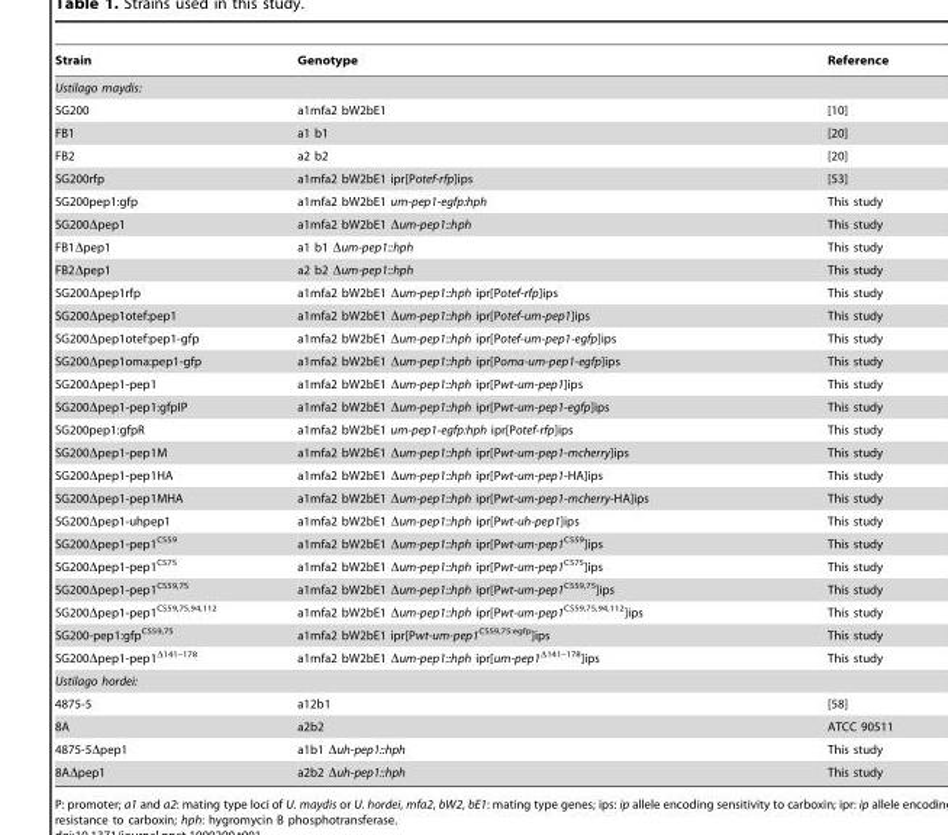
<table><thead><tr><td>Strain</td><td>Genotype</td><td>Reference</td></tr></thead><tbody><tr><td colspan="3">Ustilago maydis:</td></tr><tr><td>SG200</td><td>a1mfa2 bW2bE1</td><td>[10]</td></tr><tr><td>FB1</td><td>a1 b1</td><td>[20]</td></tr><tr><td>FB2</td><td>a2 b2</td><td>[20]</td></tr><tr><td>SG200rfp</td><td>a1mfa2 bW2bE1 ipr[Potef-rfp]ips</td><td>[53]</td></tr><tr><td>SG200pep1:gfp</td><td>a1mfa2 bW2bE1 um-pep1-egfp:hph</td><td>This study</td></tr><tr><td>SG200Δpep1</td><td>a1mfa2 bW2bE1 Δum-pep1::hph</td><td>This study</td></tr><tr><td>FB1Δpep1</td><td>a1 b1 Δum-pep1::hph</td><td>This study</td></tr><tr><td>FB2Δpep1</td><td>a2 b2 Δum-pep1::hph</td><td>This study</td></tr><tr><td>SG200Δpep1rfp</td><td>a1mfa2 bW2bE1 Δum-pep1::hph ipr[Potef-rfp]ips</td><td>This study</td></tr><tr><td>SG200Δpep1otef:pep1</td><td>a1mfa2 bW2bE1 Δum-pep1::hph ipr[Potef-um-pep1]ips</td><td>This study</td></tr><tr><td>SG200Δpep1otef:pep1-gfp</td><td>a1mfa2 bW2bE1 Δum-pep1::hph ipr[Potef-um-pep1-egfp]ips</td><td>This study</td></tr><tr><td>SG200Δpep1oma:pep1-gfp</td><td>a1mfa2 bW2bE1 Δum-pep1::hph ipr[Poma-um-pep1-egfp]ips</td><td>This study</td></tr><tr><td>SG200Δpep1-pep1</td><td>a1mfa2 bW2bE1 Δum-pep1::hph ipr[Pwt-um-pep1]ips</td><td>This study</td></tr><tr><td>SG200Δpep1-pep1:gfpIP</td><td>a1mfa2 bW2bE1 Δum-pep1::hph ipr[Pwt-um-pep1-egfp]ips</td><td>This study</td></tr><tr><td>SG200pep1:gfpR</td><td>a1mfa2 bW2bE1 um-pep1-egfp:hph ipr[Potef-rfp]ips</td><td>This study</td></tr><tr><td>SG200Δpep1-pep1M</td><td>a1mfa2 bW2bE1 Δum-pep1::hph ipr[Pwt-um-pep1-mcherry]ips</td><td>This study</td></tr><tr><td>SG200Δpep1-pep1HA</td><td>a1mfa2 bW2bE1 Δum-pep1::hph ipr[Pwt-um-pep1-HA]ips</td><td>This study</td></tr><tr><td>SG200Δpep1-pep1MHA</td><td>a1mfa2 bW2bE1 Δum-pep1::hph ipr[Pwt-um-pep1-mcherry-HA]ips</td><td>This study</td></tr><tr><td>SG200Δpep1-uhpep1</td><td>a1mfa2 bW2bE1 Δum-pep1::hph ipr[Pwt-uh-pep1]ips</td><td>This study</td></tr><tr><td>SG200Δpep1-pep1<sup>CS59</sup></td><td>a1mfa2 bW2bE1 Δum-pep1::hph ipr[Pwt-um-pep1<sup>CS59</sup>]ips</td><td>This study</td></tr><tr><td>SG200Δpep1-pep1<sup>CS75</sup></td><td>a1mfa2 bW2bE1 Δum-pep1::hph ipr[Pwt-um-pep1<sup>CS75</sup>]ips</td><td>This study</td></tr><tr><td>SG200Δpep1-pep1<sup>CS59,75</sup></td><td>a1mfa2 bW2bE1 Δum-pep1::hph ipr[Pwt-um-pep1<sup>CS59,75</sup>]ips</td><td>This study</td></tr><tr><td>SG200Δpep1-pep1<sup>CS59,75,94,112</sup></td><td>a1mfa2 bW2bE1 Δum-pep1::hph ipr[Pwt-um-pep1<sup>CS59,75,94,112</sup>]ips</td><td>This study</td></tr><tr><td>SG200-pep1:gfp<sup>CS59,75</sup></td><td>a1mfa2 bW2bE1 ipr[Pwt-um-pep1<sup>CS59,75:egfp</sup>]ips</td><td>This study</td></tr><tr><td>SG200Δpep1-pep1<sup>Δ141–178</sup></td><td>a1mfa2 bW2bE1 Δum-pep1::hph ipr[um-pep1<sup>Δ141–178</sup>]ips</td><td>This study</td></tr><tr><td colspan="3">Ustilago hordei:</td></tr><tr><td>4875-5</td><td>a12b1</td><td>[58]</td></tr><tr><td>8A</td><td>a2b2</td><td>ATCC 90511</td></tr><tr><td>4875-5Δpep1</td><td>a1b1 Δuh-pep1::hph</td><td>This study</td></tr><tr><td>8AΔpep1</td><td>a2b2 Δuh-pep1::hph</td><td>This study</td></tr></tbody></table>